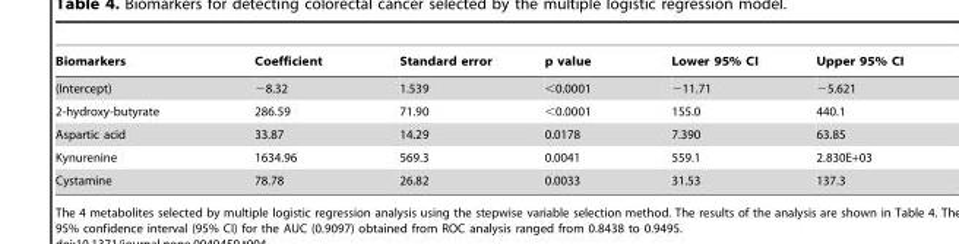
<table><thead><tr><td>Biomarkers</td><td>Coefficient</td><td>Standard error</td><td>p value</td><td>Lower 95% CI</td><td>Upper 95% CI</td></tr></thead><tbody><tr><td>(Intercept)</td><td>−8.32</td><td>1.539</td><td>&lt;0.0001</td><td>−11.71</td><td>−5.621</td></tr><tr><td>2-hydroxy-butyrate</td><td>286.59</td><td>71.90</td><td>&lt;0.0001</td><td>155.0</td><td>440.1</td></tr><tr><td>Aspartic acid</td><td>33.87</td><td>14.29</td><td>0.0178</td><td>7.390</td><td>63.85</td></tr><tr><td>Kynurenine</td><td>1634.96</td><td>569.3</td><td>0.0041</td><td>559.1</td><td>2.830E+03</td></tr><tr><td>Cystamine</td><td>78.78</td><td>26.82</td><td>0.0033</td><td>31.53</td><td>137.3</td></tr></tbody></table>